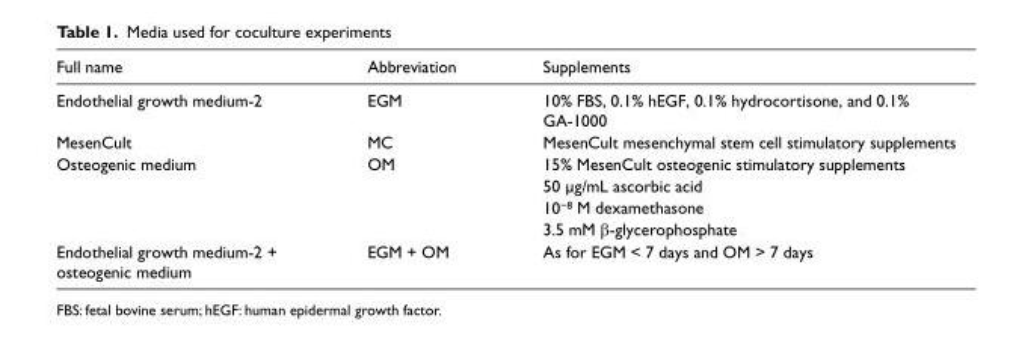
<table><thead><tr><td>Full name</td><td>Abbreviation</td><td>Supplements</td></tr></thead><tbody><tr><td>Endothelial growth medium-2</td><td>EGM</td><td>10% FBS, 0.1% hEGF, 0.1% hydrocortisone, and 0.1% GA-1000</td></tr><tr><td>MesenCult</td><td>MC</td><td>MesenCult mesenchymal stem cell stimulatory supplements</td></tr><tr><td rowspan="4">Osteogenic medium</td><td>OM</td><td>15% MesenCult osteogenic stimulatory supplements</td></tr><tr><td></td><td>50 µg/mL ascorbic acid</td></tr><tr><td></td><td>10<sup>−8</sup> M dexamethasone</td></tr><tr><td></td><td>3.5 mM β-glycerophosphate</td></tr><tr><td>Endothelial growth medium-2 + osteogenic medium</td><td>EGM + OM</td><td>As for EGM &lt; 7 days and OM &gt; 7 days</td></tr></tbody></table>